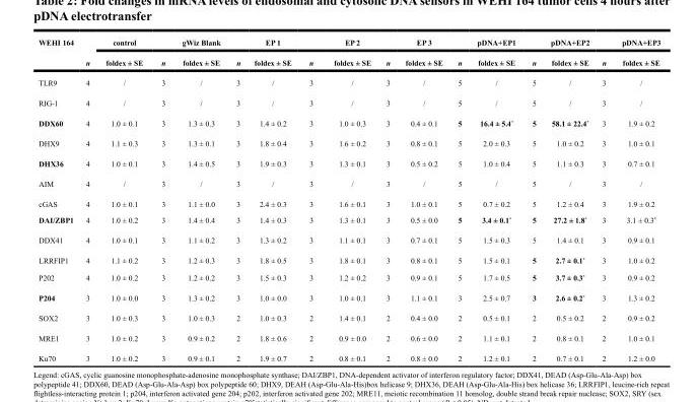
<table><thead><tr><td colspan="2">WEHI 164</td><td rowspan="2">control foldex ± SE</td><td rowspan="2">n</td><td rowspan="2">gWiz Blank foldex ± SE</td><td rowspan="2">n</td><td rowspan="2">EP 1 foldex ± SE</td><td rowspan="2">n</td><td rowspan="2">EP 2 foldex ± SE</td><td rowspan="2">n</td><td rowspan="2">EP 3 foldex ± SE</td><td rowspan="2">n</td><td rowspan="2">pDNA+EP1 foldex ± SE</td><td rowspan="2">n</td><td rowspan="2">pDNA+EP2 foldex ± SE</td><td rowspan="2">n</td><td rowspan="2">pDNA+EP3 foldex ± SE</td></tr><tr><td></td><td>n</td></tr></thead><tbody><tr><td>TLR9</td><td>4</td><td>/</td><td>3</td><td>/</td><td>3</td><td>/</td><td>3</td><td>/</td><td>3</td><td>/</td><td>5</td><td>/</td><td>5</td><td>/</td><td>3</td><td>/</td></tr><tr><td>RIG-1</td><td>4</td><td>/</td><td>3</td><td>/</td><td>3</td><td>/</td><td>3</td><td>/</td><td>3</td><td>/</td><td>5</td><td>/</td><td>5</td><td>/</td><td>3</td><td>/</td></tr><tr><td>DDX60</td><td>4</td><td>1.0 ± 0.1</td><td>3</td><td>1.3 ± 0.3</td><td>3</td><td>1.4 ± 0.2</td><td>3</td><td>1.0 ± 0.3</td><td>3</td><td>0.4 ± 0.1</td><td>5</td><td>16.4 ± 5.4*</td><td>5</td><td>58.1 ± 22.4*</td><td>3</td><td>1.9 ± 0.2</td></tr><tr><td>DHX9</td><td>4</td><td>1.1 ± 0.3</td><td>3</td><td>1.3 ± 0.1</td><td>3</td><td>1.8 ± 0.4</td><td>3</td><td>1.6 ± 0.2</td><td>3</td><td>0.8 ± 0.1</td><td>5</td><td>2.0 ± 0.3</td><td>5</td><td>1.0 ± 0.2</td><td>3</td><td>1.0 ± 0.1</td></tr><tr><td>DHX36</td><td>4</td><td>1.0 ± 0.1</td><td>3</td><td>1.4 ± 0.5</td><td>3</td><td>1.9 ± 0.3</td><td>3</td><td>1.3 ± 0.1</td><td>3</td><td>0.5 ± 0.2</td><td>5</td><td>1.0 ± 0.4</td><td>5</td><td>1.1 ± 0.3</td><td>3</td><td>0.7 ± 0.1</td></tr><tr><td>AIM</td><td>4</td><td>/</td><td>3</td><td>/</td><td>3</td><td>/</td><td>3</td><td>/</td><td>3</td><td>/</td><td>5</td><td>/</td><td>5</td><td>/</td><td>3</td><td>/</td></tr><tr><td>cGAS</td><td>4</td><td>1.0 ± 0.1</td><td>3</td><td>1.1 ± 0.0</td><td>3</td><td>2.4 ± 0.3</td><td>3</td><td>1.6 ± 0.1</td><td>3</td><td>1.0 ± 0.1</td><td>5</td><td>0.7 ± 0.2</td><td>5</td><td>1.2 ± 0.4</td><td>3</td><td>1.9 ± 0.2</td></tr><tr><td>DAI/ZBP1</td><td>4</td><td>1.0 ± 0.2</td><td>3</td><td>1.4 ± 0.4</td><td>3</td><td>1.4 ± 0.3</td><td>3</td><td>1.3 ± 0.1</td><td>3</td><td>0.5 ± 0.0</td><td>5</td><td>3.4 ± 0.1*</td><td>5</td><td>27.2 ± 1.8*</td><td>3</td><td>3.1 ± 0.3*</td></tr><tr><td>DDX41</td><td>4</td><td>1.0 ± 0.1</td><td>3</td><td>1.1 ± 0.2</td><td>3</td><td>1.3 ± 0.2</td><td>3</td><td>1.1 ± 0.1</td><td>3</td><td>0.7 ± 0.1</td><td>5</td><td>1.5 ± 0.3</td><td>5</td><td>1.4 ± 0.1</td><td>3</td><td>0.9 ± 0.1</td></tr><tr><td>LRRFIP1</td><td>4</td><td>1.1 ± 0.2</td><td>3</td><td>1.2 ± 0.3</td><td>3</td><td>1.8 ± 0.5</td><td>3</td><td>1.8 ± 0.1</td><td>3</td><td>0.8 ± 0.1</td><td>5</td><td>1.5 ± 0.1</td><td>5</td><td>2.7 ± 0.1*</td><td>3</td><td>1.0 ± 0.2</td></tr><tr><td>P202</td><td>4</td><td>1.0 ± 0.2</td><td>3</td><td>1.2 ± 0.2</td><td>3</td><td>1.5 ± 0.3</td><td>3</td><td>1.2 ± 0.2</td><td>3</td><td>0.9 ± 0.1</td><td>5</td><td>1.7 ± 0.5</td><td>5</td><td>3.7 ± 0.3*</td><td>3</td><td>0.9 ± 0.2</td></tr><tr><td>P204</td><td>3</td><td>1.0 ± 0.0</td><td>3</td><td>1.3 ± 0.2</td><td>3</td><td>1.0 ± 0.0</td><td>3</td><td>1.0 ± 0.1</td><td>3</td><td>1.1 ± 0.1</td><td>3</td><td>2.5 ± 0.7</td><td>3</td><td>2.6 ± 0.2*</td><td>3</td><td>1.3 ± 0.2</td></tr><tr><td>SOX2</td><td>3</td><td>1.0 ± 0.3</td><td>3</td><td>1.0 ± 0.3</td><td>2</td><td>1.0 ± 0.3</td><td>2</td><td>1.4 ± 0.1</td><td>2</td><td>0.4 ± 0.0</td><td>2</td><td>0.5 ± 0.1</td><td>2</td><td>0.5 ± 0.2</td><td>2</td><td>0.9 ± 0.2</td></tr><tr><td>MRE1</td><td>3</td><td>1.0 ± 0.2</td><td>3</td><td>0.9 ± 0.2</td><td>2</td><td>1.8 ± 0.6</td><td>2</td><td>0.9 ± 0.0</td><td>2</td><td>0.6 ± 0.0</td><td>2</td><td>1.1 ± 0.1</td><td>2</td><td>0.8 ± 0.1</td><td>2</td><td>1.0 ± 0.1</td></tr><tr><td>Ku70</td><td>3</td><td>1.0 ± 0.2</td><td>3</td><td>0.9 ± 0.1</td><td>2</td><td>1.9 ± 0.7</td><td>2</td><td>0.8 ± 0.1</td><td>2</td><td>0.8 ± 0.0</td><td>2</td><td>1.2 ± 0.1</td><td>2</td><td>0.7 ± 0.1</td><td>2</td><td>1.2 ± 0.0</td></tr></tbody></table>